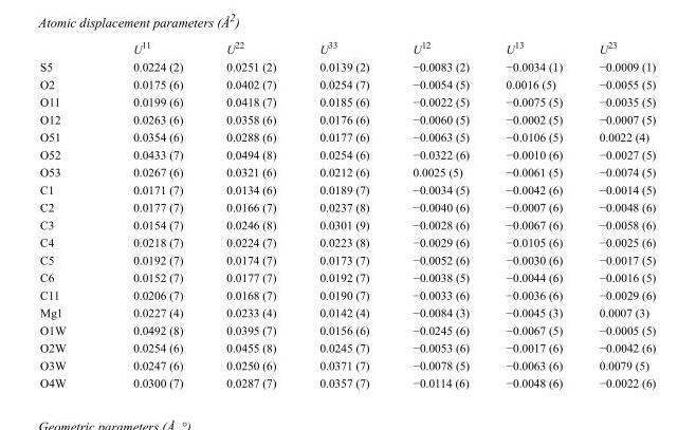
<table><thead><tr><td></td><td>U<sup>11</sup></td><td>U<sup>22</sup></td><td>U<sup>33</sup></td><td>U<sup>12</sup></td><td>U<sup>13</sup></td><td>U<sup>23</sup></td></tr></thead><tbody><tr><td>S5</td><td>0.0224 (2)</td><td>0.0251 (2)</td><td>0.0139 (2)</td><td>−0.0083 (2)</td><td>−0.0034 (1)</td><td>−0.0009 (1)</td></tr><tr><td>O2</td><td>0.0175 (6)</td><td>0.0402 (7)</td><td>0.0254 (7)</td><td>−0.0054 (5)</td><td>0.0016 (5)</td><td>−0.0055 (5)</td></tr><tr><td>O11</td><td>0.0199 (6)</td><td>0.0418 (7)</td><td>0.0185 (6)</td><td>−0.0022 (5)</td><td>−0.0075 (5)</td><td>−0.0035 (5)</td></tr><tr><td>O12</td><td>0.0263 (6)</td><td>0.0358 (6)</td><td>0.0176 (6)</td><td>−0.0060 (5)</td><td>−0.0002 (5)</td><td>−0.0007 (5)</td></tr><tr><td>O51</td><td>0.0354 (6)</td><td>0.0288 (6)</td><td>0.0177 (6)</td><td>−0.0063 (5)</td><td>−0.0106 (5)</td><td>0.0022 (4)</td></tr><tr><td>O52</td><td>0.0433 (7)</td><td>0.0494 (8)</td><td>0.0254 (6)</td><td>−0.0322 (6)</td><td>−0.0010 (6)</td><td>−0.0027 (5)</td></tr><tr><td>O53</td><td>0.0267 (6)</td><td>0.0321 (6)</td><td>0.0212 (6)</td><td>0.0025 (5)</td><td>−0.0061 (5)</td><td>−0.0074 (5)</td></tr><tr><td>C1</td><td>0.0171 (7)</td><td>0.0134 (6)</td><td>0.0189 (7)</td><td>−0.0034 (5)</td><td>−0.0042 (6)</td><td>−0.0014 (5)</td></tr><tr><td>C2</td><td>0.0177 (7)</td><td>0.0166 (7)</td><td>0.0237 (8)</td><td>−0.0040 (6)</td><td>−0.0007 (6)</td><td>−0.0048 (6)</td></tr><tr><td>C3</td><td>0.0154 (7)</td><td>0.0246 (8)</td><td>0.0301 (9)</td><td>−0.0028 (6)</td><td>−0.0067 (6)</td><td>−0.0058 (6)</td></tr><tr><td>C4</td><td>0.0218 (7)</td><td>0.0224 (7)</td><td>0.0223 (8)</td><td>−0.0029 (6)</td><td>−0.0105 (6)</td><td>−0.0025 (6)</td></tr><tr><td>C5</td><td>0.0192 (7)</td><td>0.0174 (7)</td><td>0.0173 (7)</td><td>−0.0052 (6)</td><td>−0.0030 (6)</td><td>−0.0017 (5)</td></tr><tr><td>C6</td><td>0.0152 (7)</td><td>0.0177 (7)</td><td>0.0192 (7)</td><td>−0.0038 (5)</td><td>−0.0044 (6)</td><td>−0.0016 (5)</td></tr><tr><td>C11</td><td>0.0206 (7)</td><td>0.0168 (7)</td><td>0.0190 (7)</td><td>−0.0033 (6)</td><td>−0.0036 (6)</td><td>−0.0029 (6)</td></tr><tr><td>Mg1</td><td>0.0227 (4)</td><td>0.0233 (4)</td><td>0.0142 (4)</td><td>−0.0084 (3)</td><td>−0.0045 (3)</td><td>0.0007 (3)</td></tr><tr><td>O1W</td><td>0.0492 (8)</td><td>0.0395 (7)</td><td>0.0156 (6)</td><td>−0.0245 (6)</td><td>−0.0067 (5)</td><td>−0.0005 (5)</td></tr><tr><td>O2W</td><td>0.0254 (6)</td><td>0.0455 (8)</td><td>0.0245 (7)</td><td>−0.0053 (6)</td><td>−0.0017 (6)</td><td>−0.0042 (6)</td></tr><tr><td>O3W</td><td>0.0247 (6)</td><td>0.0250 (6)</td><td>0.0371 (7)</td><td>−0.0078 (5)</td><td>−0.0063 (6)</td><td>0.0079 (5)</td></tr><tr><td>O4W</td><td>0.0300 (7)</td><td>0.0287 (7)</td><td>0.0357 (7)</td><td>−0.0114 (6)</td><td>−0.0048 (6)</td><td>−0.0022 (6)</td></tr></tbody></table>